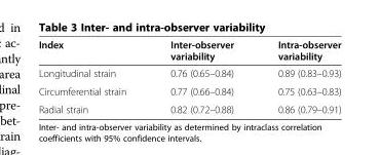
<table><thead><tr><td>Index</td><td>Inter-observer variability</td><td>Intra-observer variability</td></tr></thead><tbody><tr><td>Longitudinal strain</td><td>0.76 (0.65–0.84)</td><td>0.89 (0.83–0.93)</td></tr><tr><td>Circumferential strain</td><td>0.77 (0.66–0.84)</td><td>0.75 (0.63–0.83)</td></tr><tr><td>Radial strain</td><td>0.82 (0.72–0.88)</td><td>0.86 (0.79–0.91)</td></tr></tbody></table>